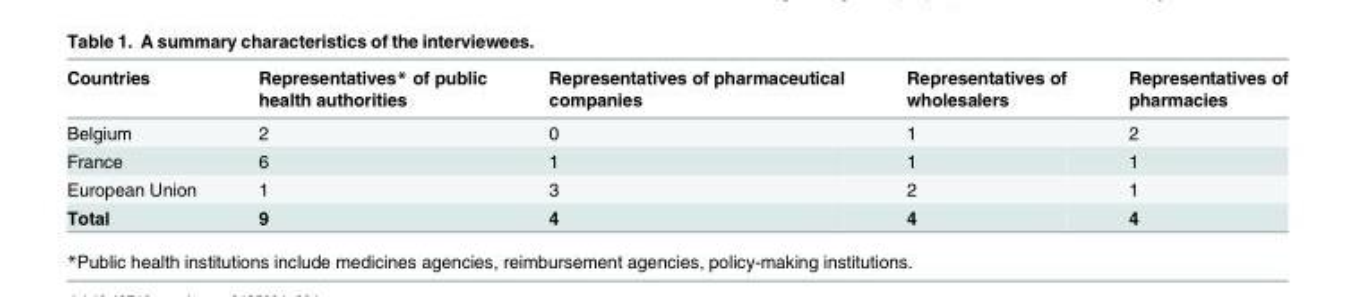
<table><thead><tr><td>Countries</td><td>Representatives* of public health authorities</td><td>Representatives of pharmaceutical companies</td><td>Representatives of wholesalers</td><td>Representatives of pharmacies</td></tr></thead><tbody><tr><td>Belgium</td><td>2</td><td>0</td><td>1</td><td>2</td></tr><tr><td>France</td><td>6</td><td>1</td><td>1</td><td>1</td></tr><tr><td>European Union</td><td>1</td><td>3</td><td>2</td><td>1</td></tr><tr><td>Total</td><td>9</td><td>4</td><td>4</td><td>4</td></tr></tbody></table>